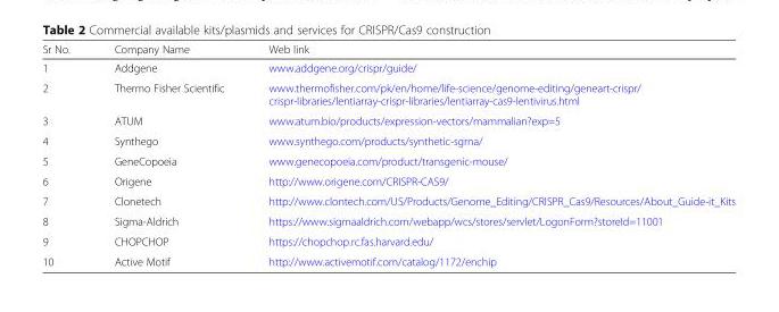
<table><thead><tr><td>Sr No.</td><td>Company Name</td><td>Web link</td></tr></thead><tbody><tr><td>1</td><td>Addgene</td><td>www.addgene.org/crispr/guide/</td></tr><tr><td>2</td><td>Thermo Fisher Scientific</td><td>www.thermofisher.com/pk/en/home/life-science/genome-editing/geneart-crispr/ crispr-libraries/lentiarray-crispr-libraries/lentiarray-cas9-lentivirus.html</td></tr><tr><td>3</td><td>ATUM</td><td>www.atum.bio/products/expression-vectors/mammalian?exp=5</td></tr><tr><td>4</td><td>Synthego</td><td>www.synthego.com/products/synthetic-sgrna/</td></tr><tr><td>5</td><td>GeneCopoeia</td><td>www.genecopoeia.com/product/transgenic-mouse/</td></tr><tr><td>6</td><td>Origene</td><td>http://www.origene.com/CRISPR-CAS9/</td></tr><tr><td>7</td><td>Clonetech</td><td>http://www.clontech.com/US/Products/Genome_Editing/CRISPR_Cas9/Resources/About_Guide-it_Kits</td></tr><tr><td>8</td><td>Sigma-Aldrich</td><td>https://www.sigmaaldrich.com/webapp/wcs/stores/servlet/LogonForm?storeId=11001</td></tr><tr><td>9</td><td>CHOPCHOP</td><td>https://chopchop.rc.fas.harvard.edu/</td></tr><tr><td>10</td><td>Active Motif</td><td>http://www.activemotif.com/catalog/1172/enchip</td></tr></tbody></table>